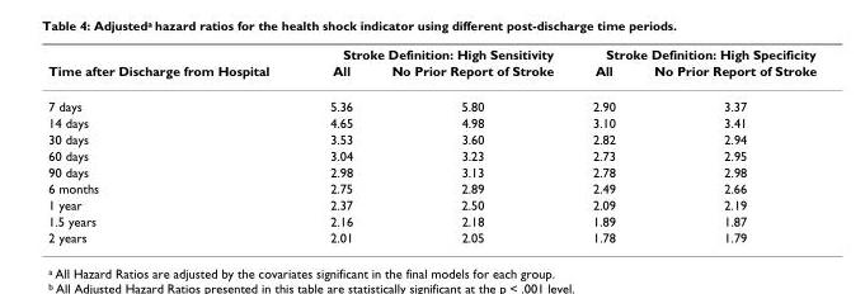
<table><thead><tr><td rowspan="2">Time after Discharge from Hospital</td><td colspan="2">Stroke Definition: High Sensitivity</td><td colspan="2">Stroke Definition: High Specificity</td></tr><tr><td>All</td><td>No Prior Report of Stroke</td><td>All</td><td>No Prior Report of Stroke</td></tr></thead><tbody><tr><td>7 days</td><td>5.36</td><td>5.80</td><td>2.90</td><td>3.37</td></tr><tr><td>14 days</td><td>4.65</td><td>4.98</td><td>3.10</td><td>3.41</td></tr><tr><td>30 days</td><td>3.53</td><td>3.60</td><td>2.82</td><td>2.94</td></tr><tr><td>60 days</td><td>3.04</td><td>3.23</td><td>2.73</td><td>2.95</td></tr><tr><td>90 days</td><td>2.98</td><td>3.13</td><td>2.78</td><td>2.98</td></tr><tr><td>6 months</td><td>2.75</td><td>2.89</td><td>2.49</td><td>2.66</td></tr><tr><td>1 year</td><td>2.37</td><td>2.50</td><td>2.09</td><td>2.19</td></tr><tr><td>1.5 years</td><td>2.16</td><td>2.18</td><td>1.89</td><td>1.87</td></tr><tr><td>2 years</td><td>2.01</td><td>2.05</td><td>1.78</td><td>1.79</td></tr></tbody></table>